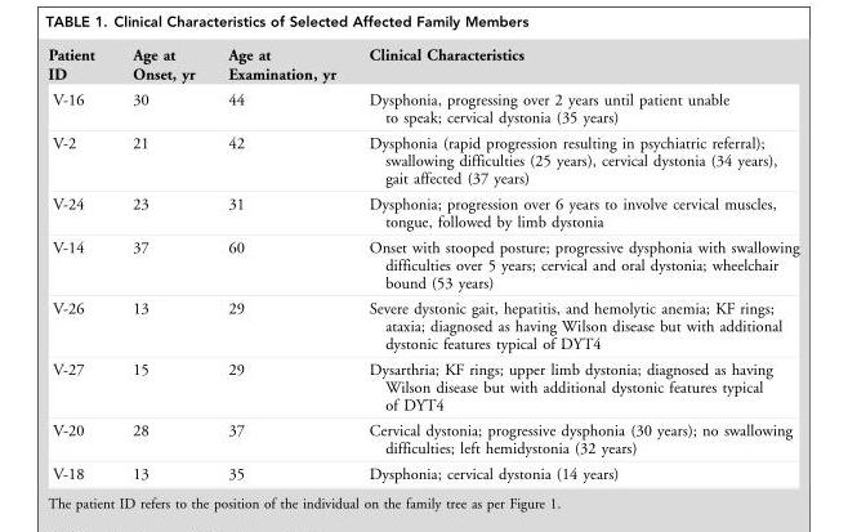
<table><thead><tr><td>Patient ID</td><td>Age at Onset, yr</td><td>Age at Examination, yr</td><td>Clinical Characteristics</td></tr></thead><tbody><tr><td>V-16</td><td>30</td><td>44</td><td>Dysphonia, progressing over 2 years until patient unable to speak; cervical dystonia (35 years)</td></tr><tr><td>V-2</td><td>21</td><td>42</td><td>Dysphonia (rapid progression resulting in psychiatric referral); swallowing difficulties (25 years), cervical dystonia (34 years), gait affected (37 years)</td></tr><tr><td>V-24</td><td>23</td><td>31</td><td>Dysphonia; progression over 6 years to involve cervical muscles, tongue, followed by limb dystonia</td></tr><tr><td>V-14</td><td>37</td><td>60</td><td>Onset with stooped posture; progressive dysphonia with swallowing difficulties over 5 years; cervical and oral dystonia; wheelchair bound (53 years)</td></tr><tr><td>V-26</td><td>13</td><td>29</td><td>Severe dystonic gait, hepatitis, and hemolytic anemia; KF rings; ataxia; diagnosed as having Wilson disease but with additional dystonic features typical of DYT4</td></tr><tr><td>V-27</td><td>15</td><td>29</td><td>Dysarthria; KF rings; upper limb dystonia; diagnosed as having Wilson disease but with additional dystonic features typical of DYT4</td></tr><tr><td>V-20</td><td>28</td><td>37</td><td>Cervical dystonia; progressive dysphonia (30 years); no swallowing difficulties; left hemidystonia (32 years)</td></tr><tr><td>V-18</td><td>13</td><td>35</td><td>Dysphonia; cervical dystonia (14 years)</td></tr></tbody></table>